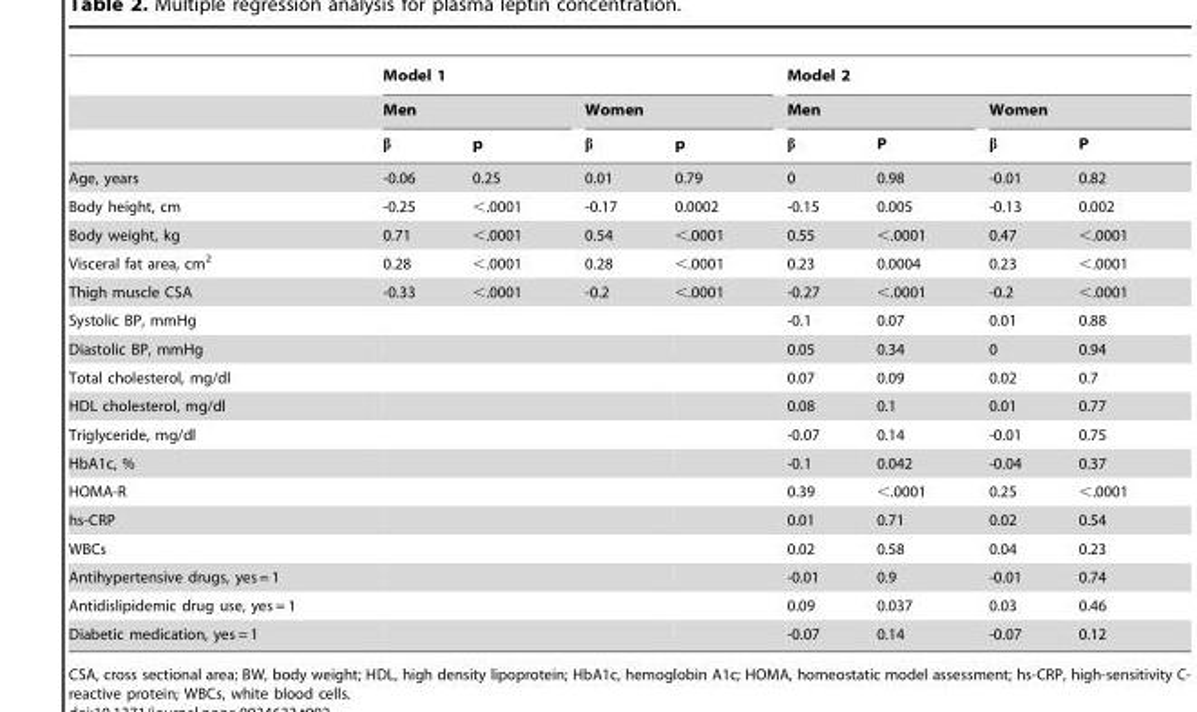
<table><thead><tr><td rowspan="3"></td><td colspan="4">Model 1</td><td colspan="4">Model 2</td></tr><tr><td colspan="2">Men</td><td colspan="2">Women</td><td colspan="2">Men</td><td colspan="2">Women</td></tr><tr><td>β</td><td>p</td><td>β</td><td>p</td><td>β</td><td>P</td><td>β</td><td>P</td></tr></thead><tbody><tr><td>Age, years</td><td>-0.06</td><td>0.25</td><td>0.01</td><td>0.79</td><td>0</td><td>0.98</td><td>-0.01</td><td>0.82</td></tr><tr><td>Body height, cm</td><td>-0.25</td><td>&lt;.0001</td><td>-0.17</td><td>0.0002</td><td>-0.15</td><td>0.005</td><td>-0.13</td><td>0.002</td></tr><tr><td>Body weight, kg</td><td>0.71</td><td>&lt;.0001</td><td>0.54</td><td>&lt;.0001</td><td>0.55</td><td>&lt;.0001</td><td>0.47</td><td>&lt;.0001</td></tr><tr><td>Visceral fat area, cm<sup>2</sup></td><td>0.28</td><td>&lt;.0001</td><td>0.28</td><td>&lt;.0001</td><td>0.23</td><td>0.0004</td><td>0.23</td><td>&lt;.0001</td></tr><tr><td>Thigh muscle CSA</td><td>-0.33</td><td>&lt;.0001</td><td>-0.2</td><td>&lt;.0001</td><td>-0.27</td><td>&lt;.0001</td><td>-0.2</td><td>&lt;.0001</td></tr><tr><td>Systolic BP, mmHg</td><td></td><td></td><td></td><td></td><td>-0.1</td><td>0.07</td><td>0.01</td><td>0.88</td></tr><tr><td>Diastolic BP, mmHg</td><td></td><td></td><td></td><td></td><td>0.05</td><td>0.34</td><td>0</td><td>0.94</td></tr><tr><td>Total cholesterol, mg/dl</td><td></td><td></td><td></td><td></td><td>0.07</td><td>0.09</td><td>0.02</td><td>0.7</td></tr><tr><td>HDL cholesterol, mg/dl</td><td></td><td></td><td></td><td></td><td>0.08</td><td>0.1</td><td>0.01</td><td>0.77</td></tr><tr><td>Triglyceride, mg/dl</td><td></td><td></td><td></td><td></td><td>-0.07</td><td>0.14</td><td>-0.01</td><td>0.75</td></tr><tr><td>HbA1c, %</td><td></td><td></td><td></td><td></td><td>-0.1</td><td>0.042</td><td>-0.04</td><td>0.37</td></tr><tr><td>HOMA-R</td><td></td><td></td><td></td><td></td><td>0.39</td><td>&lt;.0001</td><td>0.25</td><td>&lt;.0001</td></tr><tr><td>hs-CRP</td><td></td><td></td><td></td><td></td><td>0.01</td><td>0.71</td><td>0.02</td><td>0.54</td></tr><tr><td>WBCs</td><td></td><td></td><td></td><td></td><td>0.02</td><td>0.58</td><td>0.04</td><td>0.23</td></tr><tr><td>Antihypertensive drugs, yes = 1</td><td></td><td></td><td></td><td></td><td>-0.01</td><td>0.9</td><td>-0.01</td><td>0.74</td></tr><tr><td>Antidislipidemic drug use, yes = 1</td><td></td><td></td><td></td><td></td><td>0.09</td><td>0.037</td><td>0.03</td><td>0.46</td></tr><tr><td>Diabetic medication, yes = 1</td><td></td><td></td><td></td><td></td><td>-0.07</td><td>0.14</td><td>-0.07</td><td>0.12</td></tr></tbody></table>